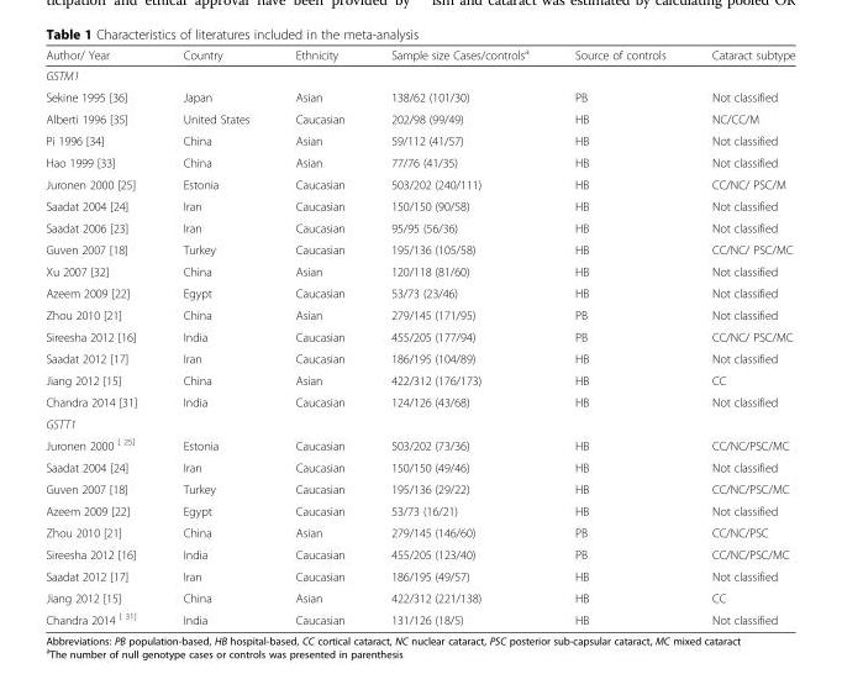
<table><thead><tr><td>Author/ Year</td><td>Country</td><td>Ethnicity</td><td>Sample size Cases/controls<sup>a</sup></td><td>Source of controls</td><td>Cataract subtype</td></tr></thead><tbody><tr><td colspan="6">GSTM1</td></tr><tr><td>Sekine 1995 [36]</td><td>Japan</td><td>Asian</td><td>138/62 (101/30)</td><td>PB</td><td>Not classified</td></tr><tr><td>Alberti 1996 [35]</td><td>United States</td><td>Caucasian</td><td>202/98 (99/49)</td><td>HB</td><td>NC/CC/M</td></tr><tr><td>Pi 1996 [34]</td><td>China</td><td>Asian</td><td>59/112 (41/57)</td><td>HB</td><td>Not classified</td></tr><tr><td>Hao 1999 [33]</td><td>China</td><td>Asian</td><td>77/76 (41/35)</td><td>HB</td><td>Not classified</td></tr><tr><td>Juronen 2000 [25]</td><td>Estonia</td><td>Caucasian</td><td>503/202 (240/111)</td><td>HB</td><td>CC/NC/ PSC/M</td></tr><tr><td>Saadat 2004 [24]</td><td>Iran</td><td>Caucasian</td><td>150/150 (90/58)</td><td>HB</td><td>Not classified</td></tr><tr><td>Saadat 2006 [23]</td><td>Iran</td><td>Caucasian</td><td>95/95 (56/36)</td><td>HB</td><td>Not classified</td></tr><tr><td>Guven 2007 [18]</td><td>Turkey</td><td>Caucasian</td><td>195/136 (105/58)</td><td>HB</td><td>CC/NC/ PSC/MC</td></tr><tr><td>Xu 2007 [32]</td><td>China</td><td>Asian</td><td>120/118 (81/60)</td><td>HB</td><td>Not classified</td></tr><tr><td>Azeem 2009 [22]</td><td>Egypt</td><td>Caucasian</td><td>53/73 (23/46)</td><td>HB</td><td>Not classified</td></tr><tr><td>Zhou 2010 [21]</td><td>China</td><td>Asian</td><td>279/145 (171/95)</td><td>PB</td><td>Not classified</td></tr><tr><td>Sireesha 2012 [16]</td><td>India</td><td>Caucasian</td><td>455/205 (177/94)</td><td>PB</td><td>CC/NC/ PSC/MC</td></tr><tr><td>Saadat 2012 [17]</td><td>Iran</td><td>Caucasian</td><td>186/195 (104/89)</td><td>HB</td><td>Not classified</td></tr><tr><td>Jiang 2012 [15]</td><td>China</td><td>Asian</td><td>422/312 (176/173)</td><td>HB</td><td>CC</td></tr><tr><td>Chandra 2014 [31]</td><td>India</td><td>Caucasian</td><td>124/126 (43/68)</td><td>HB</td><td>Not classified</td></tr><tr><td colspan="6">GSTT1</td></tr><tr><td>Juronen 2000 <sup>[ 25]</sup></td><td>Estonia</td><td>Caucasian</td><td>503/202 (73/36)</td><td>HB</td><td>CC/NC/PSC/MC</td></tr><tr><td>Saadat 2004 [24]</td><td>Iran</td><td>Caucasian</td><td>150/150 (49/46)</td><td>HB</td><td>Not classified</td></tr><tr><td>Guven 2007 [18]</td><td>Turkey</td><td>Caucasian</td><td>195/136 (29/22)</td><td>HB</td><td>CC/NC/PSC/MC</td></tr><tr><td>Azeem 2009 [22]</td><td>Egypt</td><td>Caucasian</td><td>53/73 (16/21)</td><td>HB</td><td>Not classified</td></tr><tr><td>Zhou 2010 [21]</td><td>China</td><td>Asian</td><td>279/145 (146/60)</td><td>PB</td><td>CC/NC/PSC</td></tr><tr><td>Sireesha 2012 [16]</td><td>India</td><td>Caucasian</td><td>455/205 (123/40)</td><td>PB</td><td>CC/NC/PSC/MC</td></tr><tr><td>Saadat 2012 [17]</td><td>Iran</td><td>Caucasian</td><td>186/195 (49/57)</td><td>HB</td><td>Not classified</td></tr><tr><td>Jiang 2012 [15]</td><td>China</td><td>Asian</td><td>422/312 (221/138)</td><td>HB</td><td>CC</td></tr><tr><td>Chandra 2014 <sup>[ 31]</sup></td><td>India</td><td>Caucasian</td><td>131/126 (18/5)</td><td>HB</td><td>Not classified</td></tr></tbody></table>